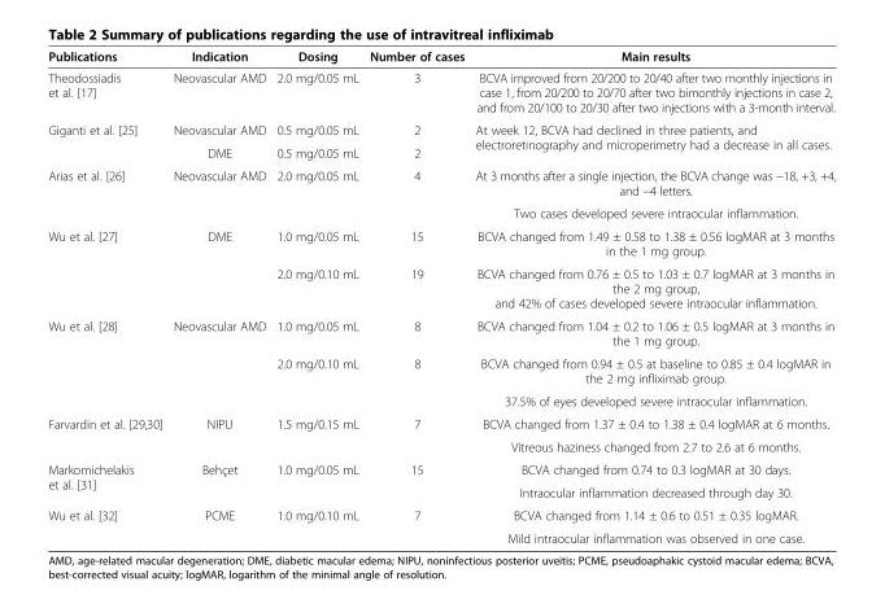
<table><thead><tr><td>Publications</td><td>Indication</td><td>Dosing</td><td>Number of cases</td><td>Main results</td></tr></thead><tbody><tr><td>Theodossiadis et al. [17]</td><td>Neovascular AMD</td><td>2.0 mg/0.05 mL</td><td>3</td><td>BCVA improved from 20/200 to 20/40 after two monthly injections in case 1, from 20/200 to 20/70 after two bimonthly injections in case 2, and from 20/100 to 20/30 after two injections with a 3-month interval.</td></tr><tr><td rowspan="2">Giganti et al. [25]</td><td>Neovascular AMD</td><td>0.5 mg/0.05 mL</td><td>2</td><td rowspan="2">At week 12, BCVA had declined in three patients, and electroretinography and microperimetry had a decrease in all cases.</td></tr><tr><td>DME</td><td>0.5 mg/0.05 mL</td><td>2</td></tr><tr><td rowspan="2">Arias et al. [26]</td><td rowspan="2">Neovascular AMD</td><td rowspan="2">2.0 mg/0.05 mL</td><td rowspan="2">4</td><td>At 3 months after a single injection, the BCVA change was −18, +3, +4, and −4 letters.</td></tr><tr><td>Two cases developed severe intraocular inflammation.</td></tr><tr><td rowspan="2">Wu et al. [27]</td><td rowspan="2">DME</td><td>1.0 mg/0.05 mL</td><td>15</td><td>BCVA changed from 1.49 ± 0.58 to 1.38 ± 0.56 logMAR at 3 months in the 1 mg group.</td></tr><tr><td>2.0 mg/0.10 mL</td><td>19</td><td>BCVA changed from 0.76 ± 0.5 to 1.03 ± 0.7 logMAR at 3 months in the 2 mg group, and 42% of cases developed severe intraocular inflammation.</td></tr><tr><td rowspan="3">Wu et al. [28]</td><td rowspan="3">Neovascular AMD</td><td>1.0 mg/0.05 mL</td><td>8</td><td>BCVA changed from 1.04 ± 0.2 to 1.06 ± 0.5 logMAR at 3 months in the 1 mg group.</td></tr><tr><td rowspan="2">2.0 mg/0.10 mL</td><td rowspan="2">8</td><td>BCVA changed from 0.94 ± 0.5 at baseline to 0.85 ± 0.4 logMAR in the 2 mg infliximab group.</td></tr><tr><td>37.5% of eyes developed severe intraocular inflammation.</td></tr><tr><td rowspan="2">Farvardin et al. [29,30]</td><td rowspan="2">NIPU</td><td rowspan="2">1.5 mg/0.15 mL</td><td rowspan="2">7</td><td>BCVA changed from 1.37 ± 0.4 to 1.38 ± 0.4 logMAR at 6 months.</td></tr><tr><td>Vitreous haziness changed from 2.7 to 2.6 at 6 months.</td></tr><tr><td rowspan="2">Markomichelakis et al. [31]</td><td rowspan="2">Behçet</td><td rowspan="2">1.0 mg/0.05 mL</td><td rowspan="2">15</td><td>BCVA changed from 0.74 to 0.3 logMAR at 30 days.</td></tr><tr><td>Intraocular inflammation decreased through day 30.</td></tr><tr><td rowspan="2">Wu et al. [32]</td><td rowspan="2">PCME</td><td rowspan="2">1.0 mg/0.10 mL</td><td rowspan="2">7</td><td>BCVA changed from 1.14 ± 0.6 to 0.51 ± 0.35 logMAR.</td></tr><tr><td>Mild intraocular inflammation was observed in one case.</td></tr></tbody></table>